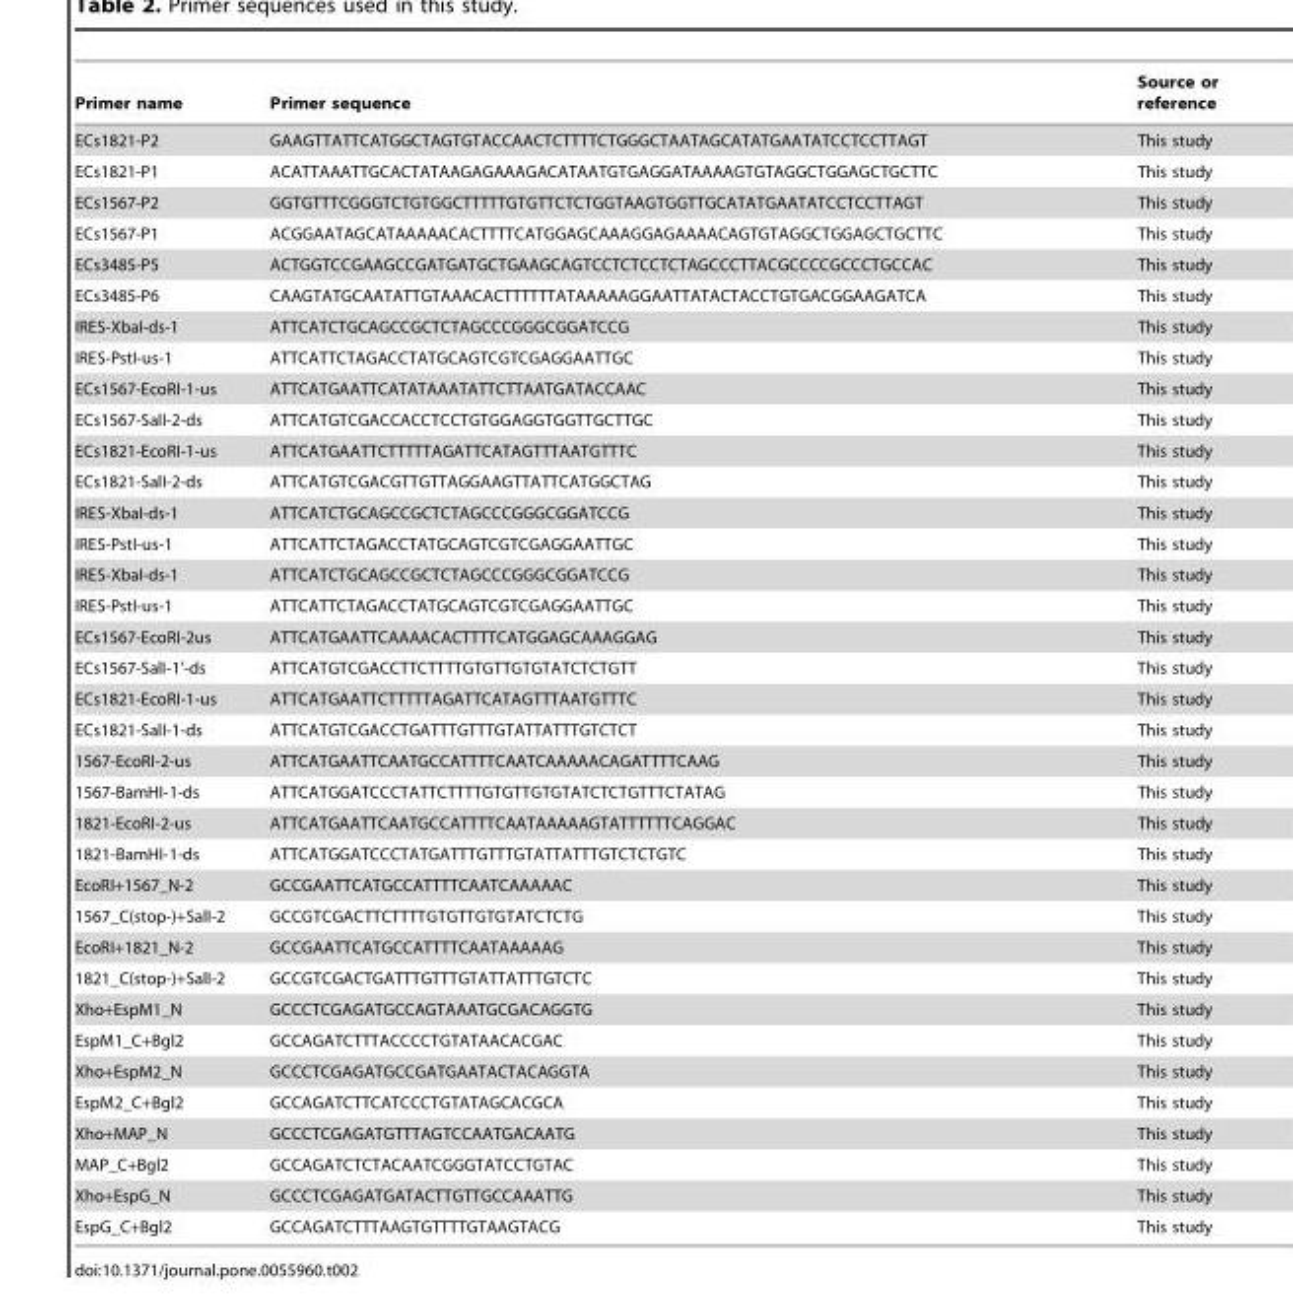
<table><thead><tr><td>Primer name</td><td>Primer sequence</td><td>Source or reference</td></tr></thead><tbody><tr><td>ECs1821-P2</td><td>GAAGTTATTCATGGCTAGTGTACCAACTCTTTTCTGGGCTAATAGCATATGAATATCCTCCTTAGT</td><td>This study</td></tr><tr><td>ECs1821-P1</td><td>ACATTAAATTGCACTATAAGAGAAAGACATAATGTGAGGATAAAAGTGTAGGCTGGAGCTGCTTC</td><td>This study</td></tr><tr><td>ECs1567-P2</td><td>GGTGTTTCGGGTCTGTGGCTTTTTGTGTTCTCTGGTAAGTGGTTGCATATGAATATCCTCCTTAGT</td><td>This study</td></tr><tr><td>ECs1567-P1</td><td>ACGGAATAGCATAAAAACACTTTTCATGGAGCAAAGGAGAAAACAGTGTAGGCTGGAGCTGCTTC</td><td>This study</td></tr><tr><td>ECs3485-P5</td><td>ACTGGTCCGAAGCCGATGATGCTGAAGCAGTCCTCTCCTCTAGCCCTTACGCCCCGCCCTGCCAC</td><td>This study</td></tr><tr><td>ECs3485-P6</td><td>CAAGTATGCAATATTGTAAACACTTTTTTATAAAAAGGAATTATACTACCTGTGACGGAAGATCA</td><td>This study</td></tr><tr><td>IRES-XbaI-ds-1</td><td>ATTCATCTGCAGCCGCTCTAGCCCGGGCGGATCCG</td><td>This study</td></tr><tr><td>IRES-PstI-us-1</td><td>ATTCATTCTAGACCTATGCAGTCGTCGAGGAATTGC</td><td>This study</td></tr><tr><td>ECs1567-EcoRI-1-us</td><td>ATTCATGAATTCATATAAATATTCTTAATGATACCAAC</td><td>This study</td></tr><tr><td>ECs1567-SalI-2-ds</td><td>ATTCATGTCGACCACCTCCTGTGGAGGTGGTTGCTTGC</td><td>This study</td></tr><tr><td>ECs1821-EcoRI-1-us</td><td>ATTCATGAATTCTTTTTAGATTCATAGTTTAATGTTTC</td><td>This study</td></tr><tr><td>ECs1821-SalI-2-ds</td><td>ATTCATGTCGACGTTGTTAGGAAGTTATTCATGGCTAG</td><td>This study</td></tr><tr><td>IRES-XbaI-ds-1</td><td>ATTCATCTGCAGCCGCTCTAGCCCGGGCGGATCCG</td><td>This study</td></tr><tr><td>IRES-PstI-us-1</td><td>ATTCATTCTAGACCTATGCAGTCGTCGAGGAATTGC</td><td>This study</td></tr><tr><td>IRES-XbaI-ds-1</td><td>ATTCATCTGCAGCCGCTCTAGCCCGGGCGGATCCG</td><td>This study</td></tr><tr><td>IRES-PstI-us-1</td><td>ATTCATTCTAGACCTATGCAGTCGTCGAGGAATTGC</td><td>This study</td></tr><tr><td>ECs1567-EcoRI-2us</td><td>ATTCATGAATTCAAAACACTTTTCATGGAGCAAAGGAG</td><td>This study</td></tr><tr><td>ECs1567-SalI-1’-ds</td><td>ATTCATGTCGACCTTCTTTTGTGTTGTGTATCTCTGTT</td><td>This study</td></tr><tr><td>ECs1821-EcoRI-1-us</td><td>ATTCATGAATTCTTTTTAGATTCATAGTTTAATGTTTC</td><td>This study</td></tr><tr><td>ECs1821-SalI-1-ds</td><td>ATTCATGTCGACCTGATTTGTTTGTATTATTTGTCTCT</td><td>This study</td></tr><tr><td>1567-EcoRI-2-us</td><td>ATTCATGAATTCAATGCCATTTTCAATCAAAAACAGATTTTCAAG</td><td>This study</td></tr><tr><td>1567-BamHI-1-ds</td><td>ATTCATGGATCCCTATTCTTTTGTGTTGTGTATCTCTGTTTCTATAG</td><td>This study</td></tr><tr><td>1821-EcoRI-2-us</td><td>ATTCATGAATTCAATGCCATTTTCAATAAAAAGTATTTTTTCAGGAC</td><td>This study</td></tr><tr><td>1821-BamHI-1-ds</td><td>ATTCATGGATCCCTATGATTTGTTTGTATTATTTGTCTCTGTC</td><td>This study</td></tr><tr><td>EcoRI+1567_N-2</td><td>GCCGAATTCATGCCATTTTCAATCAAAAAC</td><td>This study</td></tr><tr><td>1567_C(stop-)+SalI-2</td><td>GCCGTCGACTTCTTTTGTGTTGTGTATCTCTG</td><td>This study</td></tr><tr><td>EcoRI+1821_N-2</td><td>GCCGAATTCATGCCATTTTCAATAAAAAG</td><td>This study</td></tr><tr><td>1821_C(stop-)+SalI-2</td><td>GCCGTCGACTGATTTGTTTGTATTATTTGTCTC</td><td>This study</td></tr><tr><td>Xho+EspM1_N</td><td>GCCCTCGAGATGCCAGTAAATGCGACAGGTG</td><td>This study</td></tr><tr><td>EspM1_C+Bgl2</td><td>GCCAGATCTTTACCCCTGTATAACACGAC</td><td>This study</td></tr><tr><td>Xho+EspM2_N</td><td>GCCCTCGAGATGCCGATGAATACTACAGGTA</td><td>This study</td></tr><tr><td>EspM2_C+Bgl2</td><td>GCCAGATCTTCATCCCTGTATAGCACGCA</td><td>This study</td></tr><tr><td>Xho+MAP_N</td><td>GCCCTCGAGATGTTTAGTCCAATGACAATG</td><td>This study</td></tr><tr><td>MAP_C+Bgl2</td><td>GCCAGATCTCTACAATCGGGTATCCTGTAC</td><td>This study</td></tr><tr><td>Xho+EspG_N</td><td>GCCCTCGAGATGATACTTGTTGCCAAATTG</td><td>This study</td></tr><tr><td>EspG_C+Bgl2</td><td>GCCAGATCTTTAAGTGTTTTGTAAGTACG</td><td>This study</td></tr></tbody></table>